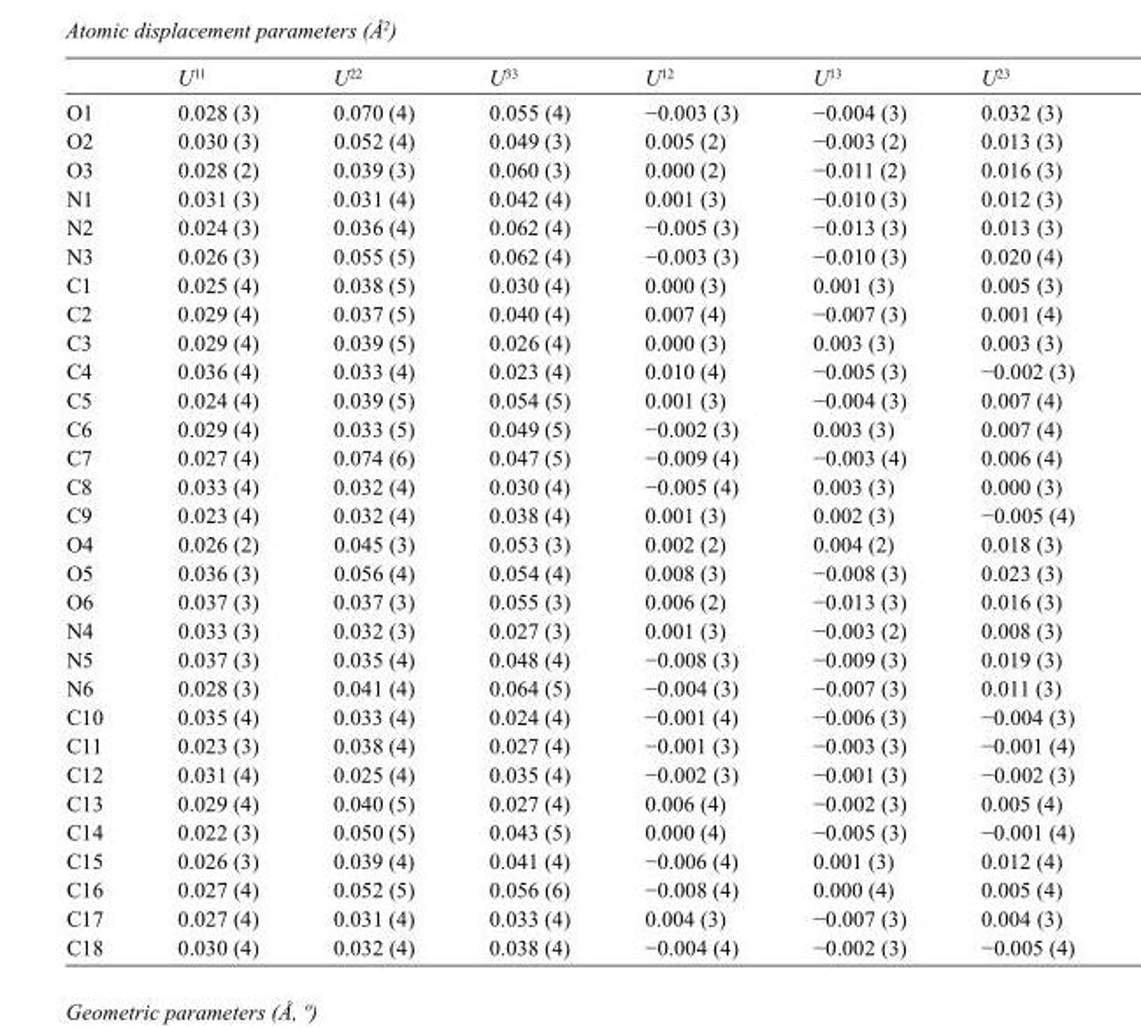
<table><thead><tr><td></td><td>U<sup>11</sup></td><td>U<sup>22</sup></td><td>U<sup>33</sup></td><td>U<sup>12</sup></td><td>U<sup>13</sup></td><td>U<sup>23</sup></td></tr></thead><tbody><tr><td>O1</td><td>0.028 (3)</td><td>0.070 (4)</td><td>0.055 (4)</td><td>−0.003 (3)</td><td>−0.004 (3)</td><td>0.032 (3)</td></tr><tr><td>O2</td><td>0.030 (3)</td><td>0.052 (4)</td><td>0.049 (3)</td><td>0.005 (2)</td><td>−0.003 (2)</td><td>0.013 (3)</td></tr><tr><td>O3</td><td>0.028 (2)</td><td>0.039 (3)</td><td>0.060 (3)</td><td>0.000 (2)</td><td>−0.011 (2)</td><td>0.016 (3)</td></tr><tr><td>N1</td><td>0.031 (3)</td><td>0.031 (4)</td><td>0.042 (4)</td><td>0.001 (3)</td><td>−0.010 (3)</td><td>0.012 (3)</td></tr><tr><td>N2</td><td>0.024 (3)</td><td>0.036 (4)</td><td>0.062 (4)</td><td>−0.005 (3)</td><td>−0.013 (3)</td><td>0.013 (3)</td></tr><tr><td>N3</td><td>0.026 (3)</td><td>0.055 (5)</td><td>0.062 (4)</td><td>−0.003 (3)</td><td>−0.010 (3)</td><td>0.020 (4)</td></tr><tr><td>C1</td><td>0.025 (4)</td><td>0.038 (5)</td><td>0.030 (4)</td><td>0.000 (3)</td><td>0.001 (3)</td><td>0.005 (3)</td></tr><tr><td>C2</td><td>0.029 (4)</td><td>0.037 (5)</td><td>0.040 (4)</td><td>0.007 (4)</td><td>−0.007 (3)</td><td>0.001 (4)</td></tr><tr><td>C3</td><td>0.029 (4)</td><td>0.039 (5)</td><td>0.026 (4)</td><td>0.000 (3)</td><td>0.003 (3)</td><td>0.003 (3)</td></tr><tr><td>C4</td><td>0.036 (4)</td><td>0.033 (4)</td><td>0.023 (4)</td><td>0.010 (4)</td><td>−0.005 (3)</td><td>−0.002 (3)</td></tr><tr><td>C5</td><td>0.024 (4)</td><td>0.039 (5)</td><td>0.054 (5)</td><td>0.001 (3)</td><td>−0.004 (3)</td><td>0.007 (4)</td></tr><tr><td>C6</td><td>0.029 (4)</td><td>0.033 (5)</td><td>0.049 (5)</td><td>−0.002 (3)</td><td>0.003 (3)</td><td>0.007 (4)</td></tr><tr><td>C7</td><td>0.027 (4)</td><td>0.074 (6)</td><td>0.047 (5)</td><td>−0.009 (4)</td><td>−0.003 (4)</td><td>0.006 (4)</td></tr><tr><td>C8</td><td>0.033 (4)</td><td>0.032 (4)</td><td>0.030 (4)</td><td>−0.005 (4)</td><td>0.003 (3)</td><td>0.000 (3)</td></tr><tr><td>C9</td><td>0.023 (4)</td><td>0.032 (4)</td><td>0.038 (4)</td><td>0.001 (3)</td><td>0.002 (3)</td><td>−0.005 (4)</td></tr><tr><td>O4</td><td>0.026 (2)</td><td>0.045 (3)</td><td>0.053 (3)</td><td>0.002 (2)</td><td>0.004 (2)</td><td>0.018 (3)</td></tr><tr><td>O5</td><td>0.036 (3)</td><td>0.056 (4)</td><td>0.054 (4)</td><td>0.008 (3)</td><td>−0.008 (3)</td><td>0.023 (3)</td></tr><tr><td>O6</td><td>0.037 (3)</td><td>0.037 (3)</td><td>0.055 (3)</td><td>0.006 (2)</td><td>−0.013 (3)</td><td>0.016 (3)</td></tr><tr><td>N4</td><td>0.033 (3)</td><td>0.032 (3)</td><td>0.027 (3)</td><td>0.001 (3)</td><td>−0.003 (2)</td><td>0.008 (3)</td></tr><tr><td>N5</td><td>0.037 (3)</td><td>0.035 (4)</td><td>0.048 (4)</td><td>−0.008 (3)</td><td>−0.009 (3)</td><td>0.019 (3)</td></tr><tr><td>N6</td><td>0.028 (3)</td><td>0.041 (4)</td><td>0.064 (5)</td><td>−0.004 (3)</td><td>−0.007 (3)</td><td>0.011 (3)</td></tr><tr><td>C10</td><td>0.035 (4)</td><td>0.033 (4)</td><td>0.024 (4)</td><td>−0.001 (4)</td><td>−0.006 (3)</td><td>−0.004 (3)</td></tr><tr><td>C11</td><td>0.023 (3)</td><td>0.038 (4)</td><td>0.027 (4)</td><td>−0.001 (3)</td><td>−0.003 (3)</td><td>−0.001 (4)</td></tr><tr><td>C12</td><td>0.031 (4)</td><td>0.025 (4)</td><td>0.035 (4)</td><td>−0.002 (3)</td><td>−0.001 (3)</td><td>−0.002 (3)</td></tr><tr><td>C13</td><td>0.029 (4)</td><td>0.040 (5)</td><td>0.027 (4)</td><td>0.006 (4)</td><td>−0.002 (3)</td><td>0.005 (4)</td></tr><tr><td>C14</td><td>0.022 (3)</td><td>0.050 (5)</td><td>0.043 (5)</td><td>0.000 (4)</td><td>−0.005 (3)</td><td>−0.001 (4)</td></tr><tr><td>C15</td><td>0.026 (3)</td><td>0.039 (4)</td><td>0.041 (4)</td><td>−0.006 (4)</td><td>0.001 (3)</td><td>0.012 (4)</td></tr><tr><td>C16</td><td>0.027 (4)</td><td>0.052 (5)</td><td>0.056 (6)</td><td>−0.008 (4)</td><td>0.000 (4)</td><td>0.005 (4)</td></tr><tr><td>C17</td><td>0.027 (4)</td><td>0.031 (4)</td><td>0.033 (4)</td><td>0.004 (3)</td><td>−0.007 (3)</td><td>0.004 (3)</td></tr><tr><td>C18</td><td>0.030 (4)</td><td>0.032 (4)</td><td>0.038 (4)</td><td>−0.004 (4)</td><td>−0.002 (3)</td><td>−0.005 (4)</td></tr></tbody></table>